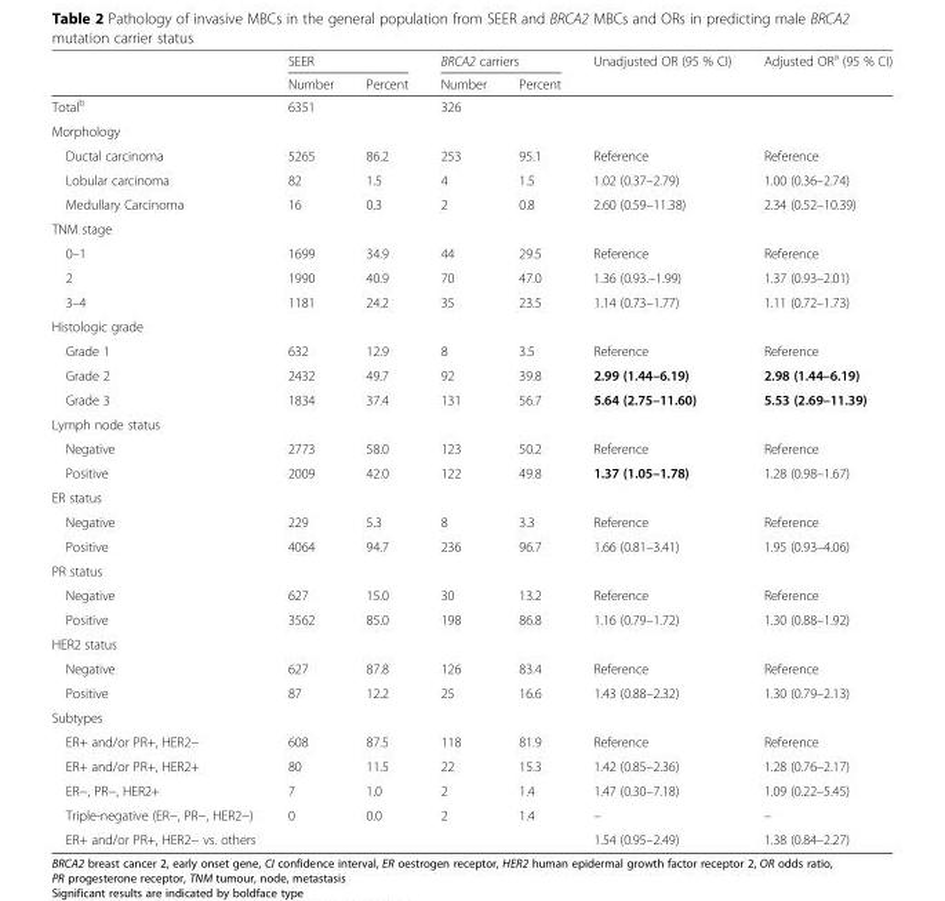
<table><thead><tr><td rowspan="2"></td><td colspan="2">SEER</td><td colspan="2">BRCA2 carriers</td><td rowspan="2">Unadjusted OR (95 % CI)</td><td rowspan="2">Adjusted OR<sup>a</sup> (95 % CI)</td></tr><tr><td>Number</td><td>Percent</td><td>Number</td><td>Percent</td></tr></thead><tbody><tr><td>Total<sup>b</sup></td><td>6351</td><td></td><td>326</td><td></td><td></td><td></td></tr><tr><td colspan="7">Morphology</td></tr><tr><td>Ductal carcinoma</td><td>5265</td><td>86.2</td><td>253</td><td>95.1</td><td>Reference</td><td>Reference</td></tr><tr><td>Lobular carcinoma</td><td>82</td><td>1.5</td><td>4</td><td>1.5</td><td>1.02 (0.37–2.79)</td><td>1.00 (0.36–2.74)</td></tr><tr><td>Medullary Carcinoma</td><td>16</td><td>0.3</td><td>2</td><td>0.8</td><td>2.60 (0.59–11.38)</td><td>2.34 (0.52–10.39)</td></tr><tr><td colspan="7">TNM stage</td></tr><tr><td>0–1</td><td>1699</td><td>34.9</td><td>44</td><td>29.5</td><td>Reference</td><td>Reference</td></tr><tr><td>2</td><td>1990</td><td>40.9</td><td>70</td><td>47.0</td><td>1.36 (0.93.–1.99)</td><td>1.37 (0.93–2.01)</td></tr><tr><td>3–4</td><td>1181</td><td>24.2</td><td>35</td><td>23.5</td><td>1.14 (0.73–1.77)</td><td>1.11 (0.72–1.73)</td></tr><tr><td colspan="7">Histologic grade</td></tr><tr><td>Grade 1</td><td>632</td><td>12.9</td><td>8</td><td>3.5</td><td>Reference</td><td>Reference</td></tr><tr><td>Grade 2</td><td>2432</td><td>49.7</td><td>92</td><td>39.8</td><td>2.99 (1.44–6.19)</td><td>2.98 (1.44–6.19)</td></tr><tr><td>Grade 3</td><td>1834</td><td>37.4</td><td>131</td><td>56.7</td><td>5.64 (2.75–11.60)</td><td>5.53 (2.69–11.39)</td></tr><tr><td colspan="7">Lymph node status</td></tr><tr><td>Negative</td><td>2773</td><td>58.0</td><td>123</td><td>50.2</td><td>Reference</td><td>Reference</td></tr><tr><td>Positive</td><td>2009</td><td>42.0</td><td>122</td><td>49.8</td><td>1.37 (1.05–1.78)</td><td>1.28 (0.98–1.67)</td></tr><tr><td colspan="7">ER status</td></tr><tr><td>Negative</td><td>229</td><td>5.3</td><td>8</td><td>3.3</td><td>Reference</td><td>Reference</td></tr><tr><td>Positive</td><td>4064</td><td>94.7</td><td>236</td><td>96.7</td><td>1.66 (0.81–3.41)</td><td>1.95 (0.93–4.06)</td></tr><tr><td colspan="7">PR status</td></tr><tr><td>Negative</td><td>627</td><td>15.0</td><td>30</td><td>13.2</td><td>Reference</td><td>Reference</td></tr><tr><td>Positive</td><td>3562</td><td>85.0</td><td>198</td><td>86.8</td><td>1.16 (0.79–1.72)</td><td>1.30 (0.88–1.92)</td></tr><tr><td colspan="7">HER2 status</td></tr><tr><td>Negative</td><td>627</td><td>87.8</td><td>126</td><td>83.4</td><td>Reference</td><td>Reference</td></tr><tr><td>Positive</td><td>87</td><td>12.2</td><td>25</td><td>16.6</td><td>1.43 (0.88–2.32)</td><td>1.30 (0.79–2.13)</td></tr><tr><td colspan="7">Subtypes</td></tr><tr><td>ER+ and/or PR+, HER2−</td><td>608</td><td>87.5</td><td>118</td><td>81.9</td><td>Reference</td><td>Reference</td></tr><tr><td>ER+ and/or PR+, HER2+</td><td>80</td><td>11.5</td><td>22</td><td>15.3</td><td>1.42 (0.85–2.36)</td><td>1.28 (0.76–2.17)</td></tr><tr><td>ER−, PR−, HER2+</td><td>7</td><td>1.0</td><td>2</td><td>1.4</td><td>1.47 (0.30–7.18)</td><td>1.09 (0.22–5.45)</td></tr><tr><td>Triple-negative (ER−, PR−, HER2−)</td><td>0</td><td>0.0</td><td>2</td><td>1.4</td><td>–</td><td>–</td></tr><tr><td>ER+ and/or PR+, HER2− vs. others</td><td></td><td></td><td></td><td></td><td>1.54 (0.95–2.49)</td><td>1.38 (0.84–2.27)</td></tr></tbody></table>